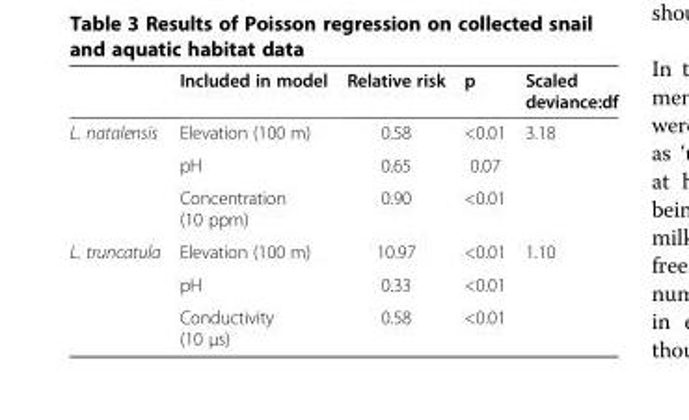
<table><thead><tr><td></td><td>Included in model</td><td>Relative risk</td><td>p</td><td>Scaled deviance:df</td></tr></thead><tbody><tr><td rowspan="3">L. natalensis</td><td>Elevation (100 m)</td><td>0.58</td><td>&lt;0.01</td><td>3.18</td></tr><tr><td>pH</td><td>0.65</td><td>0.07</td><td></td></tr><tr><td>Concentration (10 ppm)</td><td>0.90</td><td>&lt;0.01</td><td></td></tr><tr><td rowspan="3">L. truncatula</td><td>Elevation (100 m)</td><td>10.97</td><td>&lt;0.01</td><td>1.10</td></tr><tr><td>pH</td><td>0.33</td><td>&lt;0.01</td><td></td></tr><tr><td>Conductivity (10 μs)</td><td>0.58</td><td>&lt;0.01</td><td></td></tr></tbody></table>